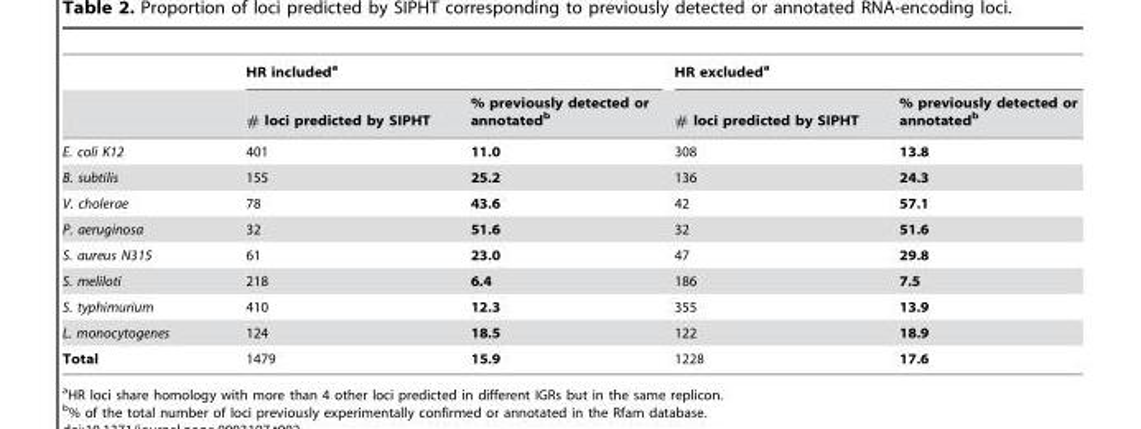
<table><thead><tr><td rowspan="2"></td><td colspan="2">HR included<sup>a</sup></td><td colspan="2">HR excluded<sup>a</sup></td></tr><tr><td># loci predicted by SIPHT</td><td>% previously detected or annotated<sup>b</sup></td><td># loci predicted by SIPHT</td><td>% previously detected or annotated<sup>b</sup></td></tr></thead><tbody><tr><td>E. coli K12</td><td>401</td><td>11.0</td><td>308</td><td>13.8</td></tr><tr><td>B. subtilis</td><td>155</td><td>25.2</td><td>136</td><td>24.3</td></tr><tr><td>V. cholerae</td><td>78</td><td>43.6</td><td>42</td><td>57.1</td></tr><tr><td>P. aeruginosa</td><td>32</td><td>51.6</td><td>32</td><td>51.6</td></tr><tr><td>S. aureus N315</td><td>61</td><td>23.0</td><td>47</td><td>29.8</td></tr><tr><td>S. meliloti</td><td>218</td><td>6.4</td><td>186</td><td>7.5</td></tr><tr><td>S. typhimurium</td><td>410</td><td>12.3</td><td>355</td><td>13.9</td></tr><tr><td>L. monocytogenes</td><td>124</td><td>18.5</td><td>122</td><td>18.9</td></tr><tr><td>Total</td><td>1479</td><td>15.9</td><td>1228</td><td>17.6</td></tr></tbody></table>